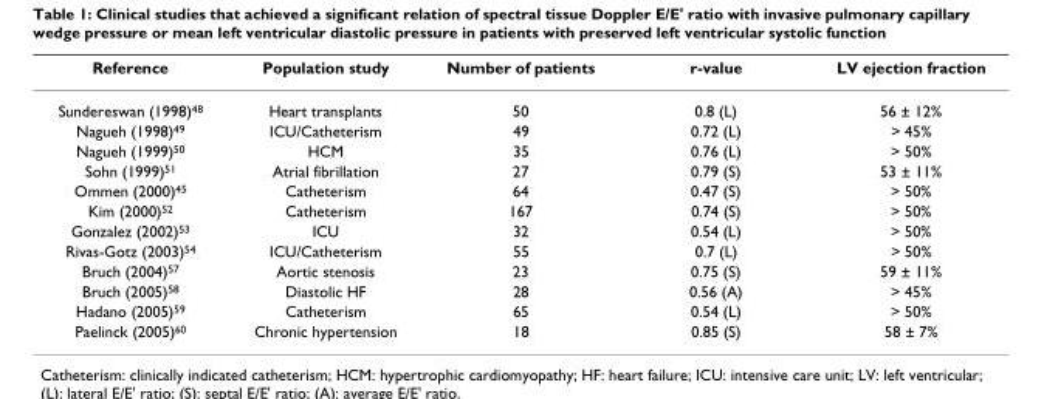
<table><thead><tr><td>Reference</td><td>Population study</td><td>Number of patients</td><td>r-value</td><td>LV ejection fraction</td></tr></thead><tbody><tr><td>Sundereswan (1998)<sup>48</sup></td><td>Heart transplants</td><td>50</td><td>0.8 (L)</td><td>56 ± 12%</td></tr><tr><td>Nagueh (1998)<sup>49</sup></td><td>ICU/Catheterism</td><td>49</td><td>0.72 (L)</td><td>&gt; 45%</td></tr><tr><td>Nagueh (1999)<sup>50</sup></td><td>HCM</td><td>35</td><td>0.76 (L)</td><td>&gt; 50%</td></tr><tr><td>Sohn (1999)<sup>51</sup></td><td>Atrial fibrillation</td><td>27</td><td>0.79 (S)</td><td>53 ± 11%</td></tr><tr><td>Ommen (2000)<sup>45</sup></td><td>Catheterism</td><td>64</td><td>0.47 (S)</td><td>&gt; 50%</td></tr><tr><td>Kim (2000)<sup>52</sup></td><td>Catheterism</td><td>167</td><td>0.74 (S)</td><td>&gt; 50%</td></tr><tr><td>Gonzalez (2002)<sup>53</sup></td><td>ICU</td><td>32</td><td>0.54 (L)</td><td>&gt; 50%</td></tr><tr><td>Rivas-Gotz (2003)<sup>54</sup></td><td>ICU/Catheterism</td><td>55</td><td>0.7 (L)</td><td>&gt; 50%</td></tr><tr><td>Bruch (2004)<sup>57</sup></td><td>Aortic stenosis</td><td>23</td><td>0.75 (S)</td><td>59 ± 11%</td></tr><tr><td>Bruch (2005)<sup>58</sup></td><td>Diastolic HF</td><td>28</td><td>0.56 (A)</td><td>&gt; 45%</td></tr><tr><td>Hadano (2005)<sup>59</sup></td><td>Catheterism</td><td>65</td><td>0.54 (L)</td><td>&gt; 50%</td></tr><tr><td>Paelinck (2005)<sup>60</sup></td><td>Chronic hypertension</td><td>18</td><td>0.85 (S)</td><td>58 ± 7%</td></tr></tbody></table>